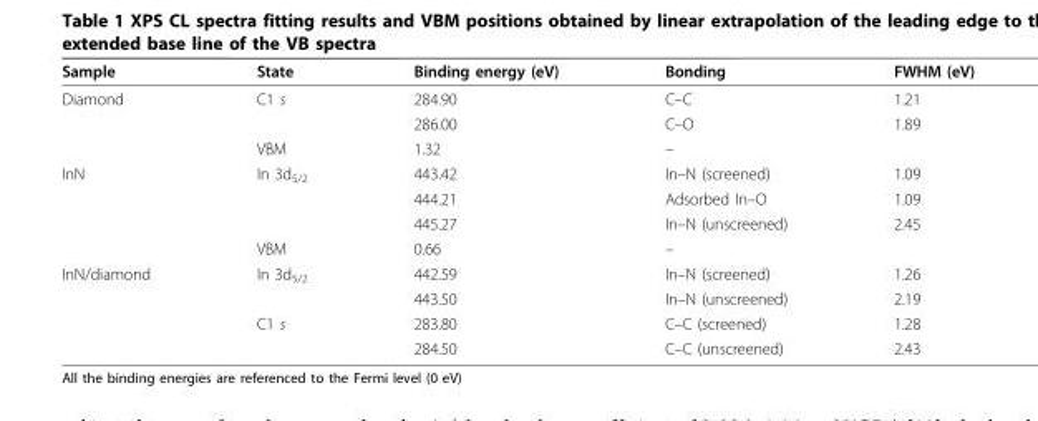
<table><thead><tr><td>Sample</td><td>State</td><td>Binding energy (eV)</td><td>Bonding</td><td>FWHM (eV)</td></tr></thead><tbody><tr><td rowspan="3">Diamond</td><td>C1 s</td><td>284.90</td><td>C–C</td><td>1.21</td></tr><tr><td></td><td>286.00</td><td>C–O</td><td>1.89</td></tr><tr><td>VBM</td><td>1.32</td><td>–</td><td></td></tr><tr><td rowspan="4">InN</td><td>In 3d<sub>5/2</sub></td><td>443.42</td><td>In–N (screened)</td><td>1.09</td></tr><tr><td></td><td>444.21</td><td>Adsorbed In–O</td><td>1.09</td></tr><tr><td></td><td>445.27</td><td>In–N (unscreened)</td><td>2.45</td></tr><tr><td>VBM</td><td>0.66</td><td>–</td><td></td></tr><tr><td rowspan="4">InN/diamond</td><td>In 3d<sub>5/2</sub></td><td>442.59</td><td>In–N (screened)</td><td>1.26</td></tr><tr><td></td><td>443.50</td><td>In–N (unscreened)</td><td>2.19</td></tr><tr><td>C1 s</td><td>283.80</td><td>C–C (screened)</td><td>1.28</td></tr><tr><td></td><td>284.50</td><td>C–C (unscreened)</td><td>2.43</td></tr></tbody></table>